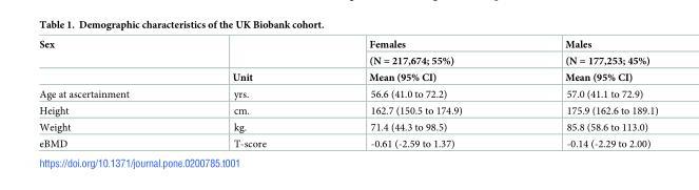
<table><thead><tr><td rowspan="3">Sex</td><td rowspan="3">Unit</td><td rowspan="3">Females (N = 217,674; 55%) Mean (95% CI)</td><td rowspan="3">Males (N = 177,253; 45%) Mean (95% CI)</td></tr><tr></tr><tr></tr></thead><tbody><tr><td>Age at ascertainment</td><td>yrs.</td><td>56.6 (41.0 to 72.2)</td><td>57.0 (41.1 to 72.9)</td></tr><tr><td>Height</td><td>cm.</td><td>162.7 (150.5 to 174.9)</td><td>175.9 (162.6 to 189.1)</td></tr><tr><td>Weight</td><td>kg.</td><td>71.4 (44.3 to 98.5)</td><td>85.8 (58.6 to 113.0)</td></tr><tr><td>eBMD</td><td>T-score</td><td>-0.61 (-2.59 to 1.37)</td><td>-0.14 (-2.29 to 2.00)</td></tr></tbody></table>